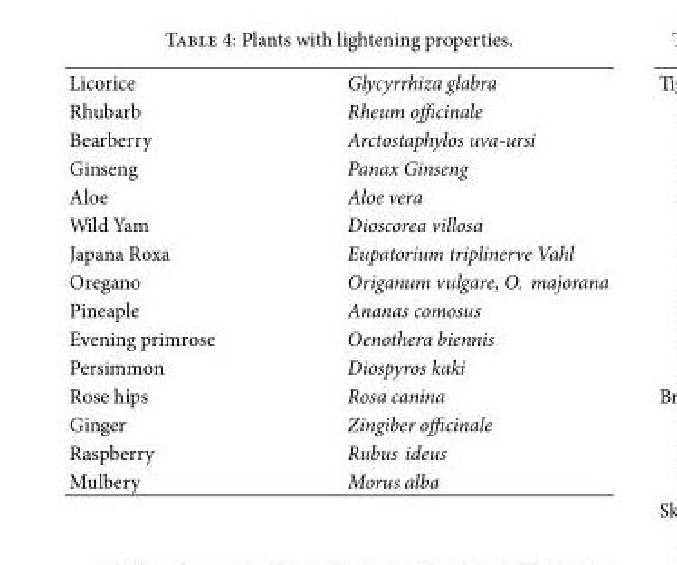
<table><tbody><tr><td>Licorice</td><td>Glycyrrhiza glabra</td></tr><tr><td>Rhubarb</td><td>Rheum officinale</td></tr><tr><td>Bearberry</td><td>Arctostaphylos uva-ursi</td></tr><tr><td>Ginseng</td><td>Panax Ginseng</td></tr><tr><td>Aloe</td><td>Aloe vera</td></tr><tr><td>Wild Yam</td><td>Dioscorea villosa</td></tr><tr><td>Japana Roxa</td><td>Eupatorium triplinerve Vahl</td></tr><tr><td>Oregano</td><td>Origanum vulgare, O. majorana</td></tr><tr><td>Pineaple</td><td>Ananas comosus</td></tr><tr><td>Evening primrose</td><td>Oenothera biennis</td></tr><tr><td>Persimmon</td><td>Diospyros kaki</td></tr><tr><td>Rose hips</td><td>Rosa canina</td></tr><tr><td>Ginger</td><td>Zingiber officinale</td></tr><tr><td>Raspberry</td><td>Rubus ideus</td></tr><tr><td>Mulbery</td><td>Morus alba</td></tr></tbody></table>